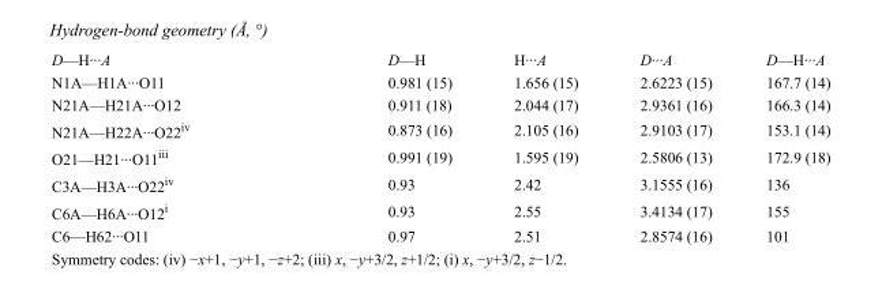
<table><tbody><tr><td>D—H···A</td><td>D—H</td><td>H···A</td><td>D···A</td><td>D—H···A</td></tr><tr><td>N1A—H1A···O11</td><td>0.981 (15)</td><td>1.656 (15)</td><td>2.6223 (15)</td><td>167.7 (14)</td></tr><tr><td>N21A—H21A···O12</td><td>0.911 (18)</td><td>2.044 (17)</td><td>2.9361 (16)</td><td>166.3 (14)</td></tr><tr><td>N21A—H22A···O22<sup>iv</sup></td><td>0.873 (16)</td><td>2.105 (16)</td><td>2.9103 (17)</td><td>153.1 (14)</td></tr><tr><td>O21—H21···O11<sup>iii</sup></td><td>0.991 (19)</td><td>1.595 (19)</td><td>2.5806 (13)</td><td>172.9 (18)</td></tr><tr><td>C3A—H3A···O22<sup>iv</sup></td><td>0.93</td><td>2.42</td><td>3.1555 (16)</td><td>136</td></tr><tr><td>C6A—H6A···O12<sup>i</sup></td><td>0.93</td><td>2.55</td><td>3.4134 (17)</td><td>155</td></tr><tr><td>C6—H62···O11</td><td>0.97</td><td>2.51</td><td>2.8574 (16)</td><td>101</td></tr></tbody></table>